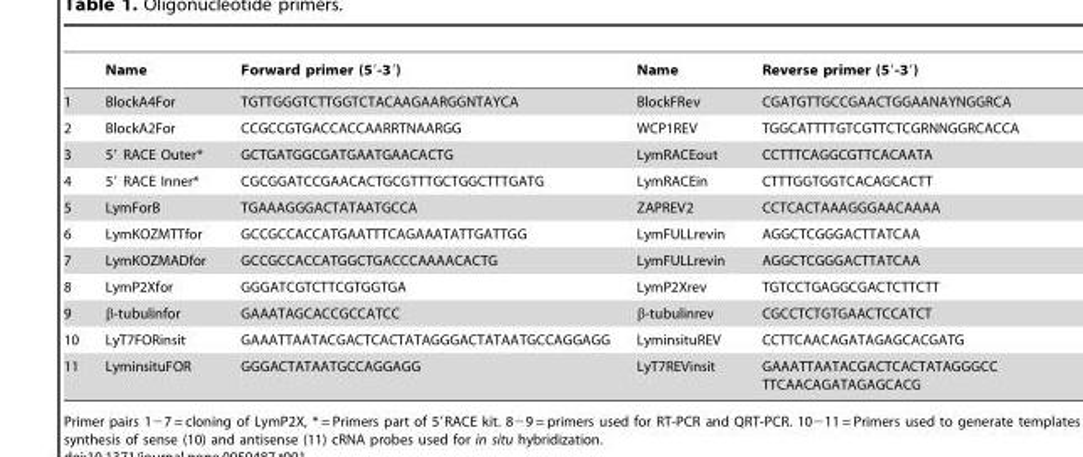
<table><thead><tr><td></td><td>Name</td><td>Forward primer (5′-3′)</td><td>Name</td><td>Reverse primer (5′-3′)</td></tr></thead><tbody><tr><td>1</td><td>BlockA4For</td><td>TGTTGGGTCTTGGTCTACAAGAARGGNTAYCA</td><td>BlockFRev</td><td>CGATGTTGCCGAACTGGAANAYNGGRCA</td></tr><tr><td>2</td><td>BlockA2For</td><td>CCGCCGTGACCACCAARRTNAARGG</td><td>WCP1REV</td><td>TGGCATTTTGTCGTTCTCGRNNGGRCACCA</td></tr><tr><td>3</td><td>5′ RACE Outer*</td><td>GCTGATGGCGATGAATGAACACTG</td><td>LymRACEout</td><td>CCTTTCAGGCGTTCACAATA</td></tr><tr><td>4</td><td>5′ RACE Inner*</td><td>CGCGGATCCGAACACTGCGTTTGCTGGCTTTGATG</td><td>LymRACEin</td><td>CTTTGGTGGTCACAGCACTT</td></tr><tr><td>5</td><td>LymForB</td><td>TGAAAGGGACTATAATGCCA</td><td>ZAPREV2</td><td>CCTCACTAAAGGGAACAAAA</td></tr><tr><td>6</td><td>LymKOZMTTfor</td><td>GCCGCCACCATGAATTTCAGAAATATTGATTGG</td><td>LymFULLrevin</td><td>AGGCTCGGGACTTATCAA</td></tr><tr><td>7</td><td>LymKOZMADfor</td><td>GCCGCCACCATGGCTGACCCAAAACACTG</td><td>LymFULLrevin</td><td>AGGCTCGGGACTTATCAA</td></tr><tr><td>8</td><td>LymP2Xfor</td><td>GGGATCGTCTTCGTGGTGA</td><td>LymP2Xrev</td><td>TGTCCTGAGGCGACTCTTCTT</td></tr><tr><td>9</td><td>β-tubulinfor</td><td>GAAATAGCACCGCCATCC</td><td>β-tubulinrev</td><td>CGCCTCTGTGAACTCCATCT</td></tr><tr><td>10</td><td>LyT7FORinsit</td><td>GAAATTAATACGACTCACTATAGGGACTATAATGCCAGGAGG</td><td>LyminsituREV</td><td>CCTTCAACAGATAGAGCACGATG</td></tr><tr><td>11</td><td>LyminsituFOR</td><td>GGGACTATAATGCCAGGAGG</td><td>LyT7REVinsit</td><td>GAAATTAATACGACTCACTATAGGGCC TTCAACAGATAGAGCACG</td></tr></tbody></table>